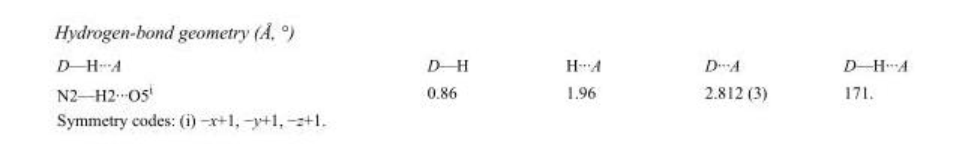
<table><tbody><tr><td>D—H···A</td><td>D—H</td><td>H···A</td><td>D···A</td><td>D—H···A</td></tr><tr><td>N2—H2···O5<sup>i</sup></td><td>0.86</td><td>1.96</td><td>2.812 (3)</td><td>171.</td></tr></tbody></table>